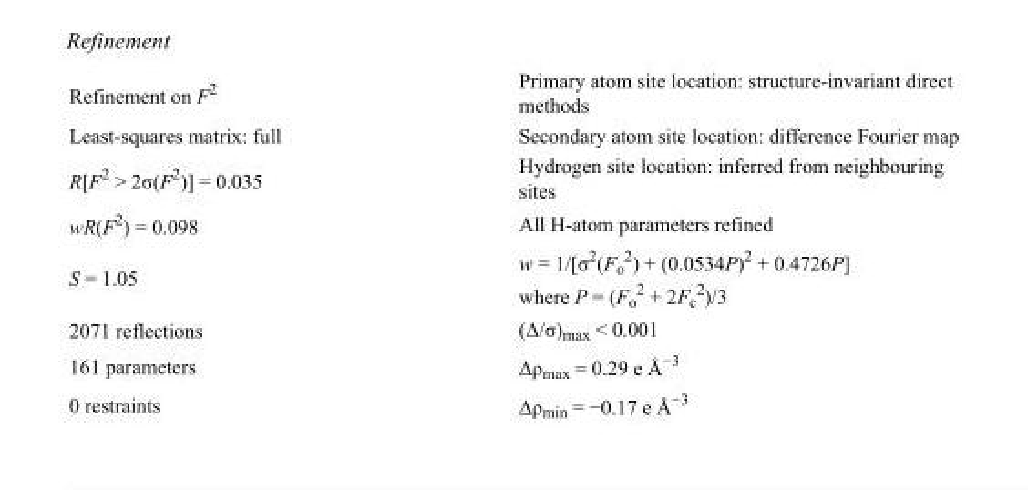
<table><tbody><tr><td>Refinement on F<sup>2</sup></td><td>Primary atom site location: structure-invariant direct methods</td></tr><tr><td>Least-squares matrix: full</td><td>Secondary atom site location: difference Fourier map</td></tr><tr><td>R[F<sup>2</sup> &gt; 2σ(F<sup>2</sup>)] = 0.035</td><td>Hydrogen site location: inferred from neighbouring sites</td></tr><tr><td>wR(F<sup>2</sup>) = 0.098</td><td>All H-atom parameters refined</td></tr><tr><td>S = 1.05</td><td>w = 1/[σ<sup>2</sup>(F<sub>o</sub> <sup>2</sup>) + (0.0534P)<sup>2</sup> + 0.4726P] where P = (F<sub>o</sub> <sup>2</sup> + 2F<sub>c</sub> <sup>2</sup>)/3</td></tr><tr><td>2071 reflections</td><td>(Δ/σ)<sub>max</sub> &lt; 0.001</td></tr><tr><td>161 parameters</td><td>Δρ<sub>max</sub> = 0.29 e Å<sup>−3</sup></td></tr><tr><td>0 restraints</td><td>Δρ<sub>min</sub> = −0.17 e Å<sup>−3</sup></td></tr></tbody></table>